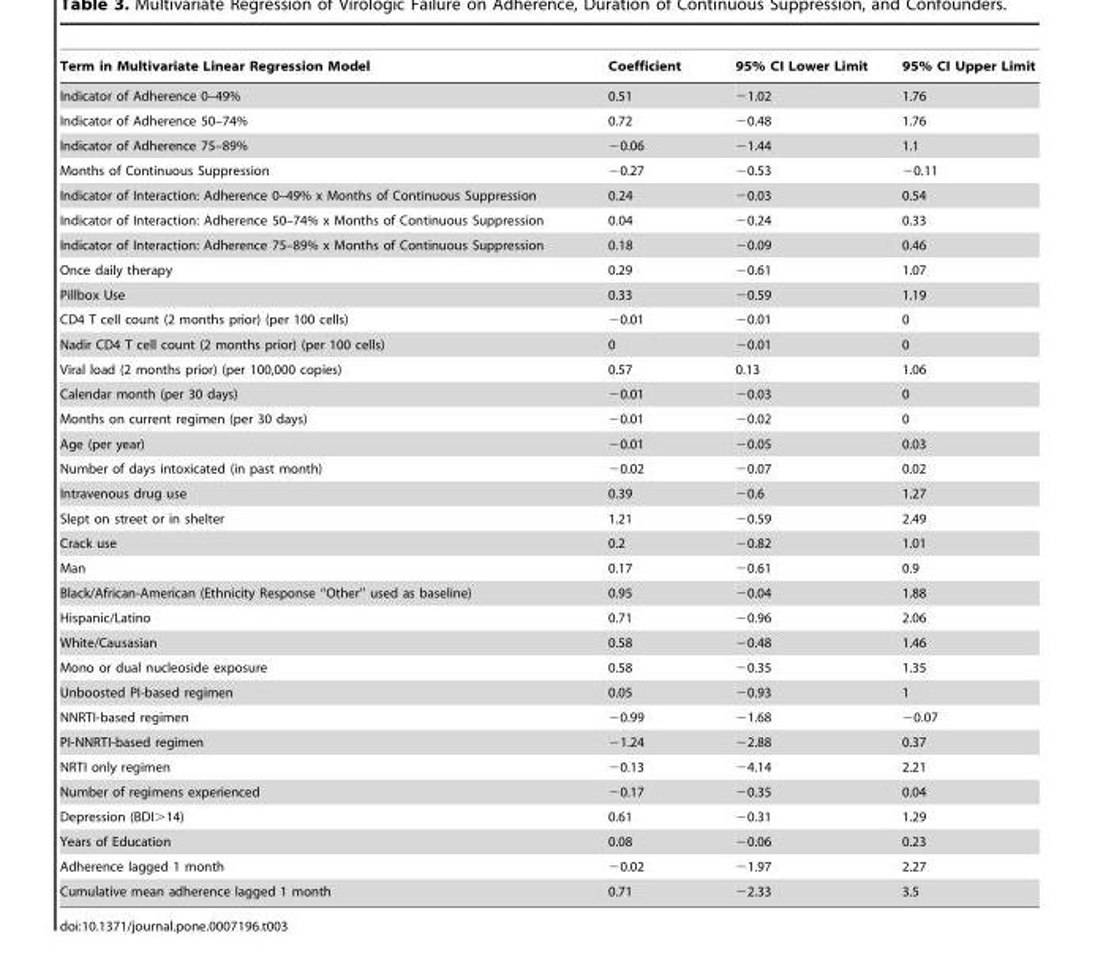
<table><thead><tr><td>Term in Multivariate Linear Regression Model</td><td>Coefficient</td><td>95% CI Lower Limit</td><td>95% CI Upper Limit</td></tr></thead><tbody><tr><td>Indicator of Adherence 0–49%</td><td>0.51</td><td>−1.02</td><td>1.76</td></tr><tr><td>Indicator of Adherence 50–74%</td><td>0.72</td><td>−0.48</td><td>1.76</td></tr><tr><td>Indicator of Adherence 75–89%</td><td>−0.06</td><td>−1.44</td><td>1.1</td></tr><tr><td>Months of Continuous Suppression</td><td>−0.27</td><td>−0.53</td><td>−0.11</td></tr><tr><td>Indicator of Interaction: Adherence 0–49% x Months of Continuous Suppression</td><td>0.24</td><td>−0.03</td><td>0.54</td></tr><tr><td>Indicator of Interaction: Adherence 50–74% x Months of Continuous Suppression</td><td>0.04</td><td>−0.24</td><td>0.33</td></tr><tr><td>Indicator of Interaction: Adherence 75–89% x Months of Continuous Suppression</td><td>0.18</td><td>−0.09</td><td>0.46</td></tr><tr><td>Once daily therapy</td><td>0.29</td><td>−0.61</td><td>1.07</td></tr><tr><td>Pillbox Use</td><td>0.33</td><td>−0.59</td><td>1.19</td></tr><tr><td>CD4 T cell count (2 months prior) (per 100 cells)</td><td>−0.01</td><td>−0.01</td><td>0</td></tr><tr><td>Nadir CD4 T cell count (2 months prior) (per 100 cells)</td><td>0</td><td>−0.01</td><td>0</td></tr><tr><td>Viral load (2 months prior) (per 100,000 copies)</td><td>0.57</td><td>0.13</td><td>1.06</td></tr><tr><td>Calendar month (per 30 days)</td><td>−0.01</td><td>−0.03</td><td>0</td></tr><tr><td>Months on current regimen (per 30 days)</td><td>−0.01</td><td>−0.02</td><td>0</td></tr><tr><td>Age (per year)</td><td>−0.01</td><td>−0.05</td><td>0.03</td></tr><tr><td>Number of days intoxicated (in past month)</td><td>−0.02</td><td>−0.07</td><td>0.02</td></tr><tr><td>Intravenous drug use</td><td>0.39</td><td>−0.6</td><td>1.27</td></tr><tr><td>Slept on street or in shelter</td><td>1.21</td><td>−0.59</td><td>2.49</td></tr><tr><td>Crack use</td><td>0.2</td><td>−0.82</td><td>1.01</td></tr><tr><td>Man</td><td>0.17</td><td>−0.61</td><td>0.9</td></tr><tr><td>Black/African-American (Ethnicity Response ‘‘Other’’ used as baseline)</td><td>0.95</td><td>−0.04</td><td>1.88</td></tr><tr><td>Hispanic/Latino</td><td>0.71</td><td>−0.96</td><td>2.06</td></tr><tr><td>White/Causasian</td><td>0.58</td><td>−0.48</td><td>1.46</td></tr><tr><td>Mono or dual nucleoside exposure</td><td>0.58</td><td>−0.35</td><td>1.35</td></tr><tr><td>Unboosted PI-based regimen</td><td>0.05</td><td>−0.93</td><td>1</td></tr><tr><td>NNRTI-based regimen</td><td>−0.99</td><td>−1.68</td><td>−0.07</td></tr><tr><td>PI-NNRTI-based regimen</td><td>−1.24</td><td>−2.88</td><td>0.37</td></tr><tr><td>NRTI only regimen</td><td>−0.13</td><td>−4.14</td><td>2.21</td></tr><tr><td>Number of regimens experienced</td><td>−0.17</td><td>−0.35</td><td>0.04</td></tr><tr><td>Depression (BDI&gt;14)</td><td>0.61</td><td>−0.31</td><td>1.29</td></tr><tr><td>Years of Education</td><td>0.08</td><td>−0.06</td><td>0.23</td></tr><tr><td>Adherence lagged 1 month</td><td>−0.02</td><td>−1.97</td><td>2.27</td></tr><tr><td>Cumulative mean adherence lagged 1 month</td><td>0.71</td><td>−2.33</td><td>3.5</td></tr></tbody></table>